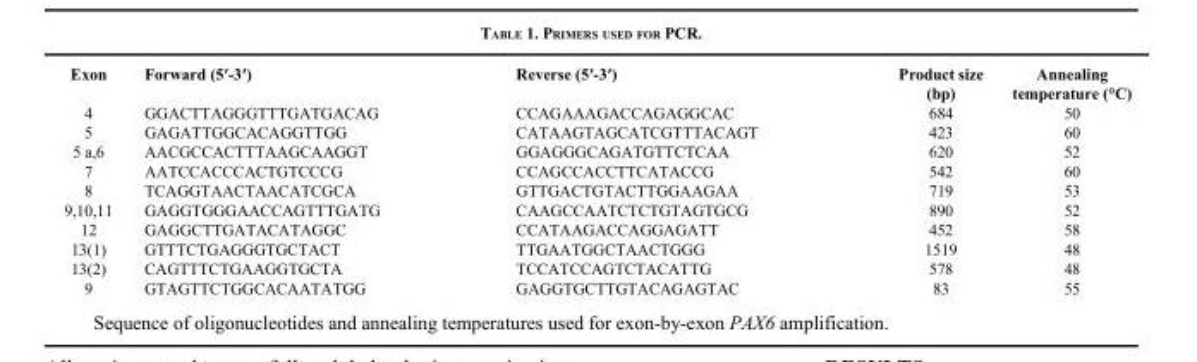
<table><thead><tr><td>Exon</td><td>Forward (5′-3′)</td><td>Reverse (5′-3′)</td><td>Product size (bp)</td><td>Annealing temperature (°C)</td></tr></thead><tbody><tr><td>4</td><td>GGACTTAGGGTTTGATGACAG</td><td>CCAGAAAGACCAGAGGCAC</td><td>684</td><td>50</td></tr><tr><td>5</td><td>GAGATTGGCACAGGTTGG</td><td>CATAAGTAGCATCGTTTACAGT</td><td>423</td><td>60</td></tr><tr><td>5 a,6</td><td>AACGCCACTTTAAGCAAGGT</td><td>GGAGGGCAGATGTTCTCAA</td><td>620</td><td>52</td></tr><tr><td>7</td><td>AATCCACCCACTGTCCCG</td><td>CCAGCCACCTTCATACCG</td><td>542</td><td>60</td></tr><tr><td>8</td><td>TCAGGTAACTAACATCGCA</td><td>GTTGACTGTACTTGGAAGAA</td><td>719</td><td>53</td></tr><tr><td>9,10,11</td><td>GAGGTGGGAACCAGTTTGATG</td><td>CAAGCCAATCTCTGTAGTGCG</td><td>890</td><td>52</td></tr><tr><td>12</td><td>GAGGCTTGATACATAGGC</td><td>CCATAAGACCAGGAGATT</td><td>452</td><td>58</td></tr><tr><td>13(1)</td><td>GTTTCTGAGGGTGCTACT</td><td>TTGAATGGCTAACTGGG</td><td>1519</td><td>48</td></tr><tr><td>13(2)</td><td>CAGTTTCTGAAGGTGCTA</td><td>TCCATCCAGTCTACATTG</td><td>578</td><td>48</td></tr><tr><td>9</td><td>GTAGTTCTGGCACAATATGG</td><td>GAGGTGCTTGTACAGAGTAC</td><td>83</td><td>55</td></tr></tbody></table>